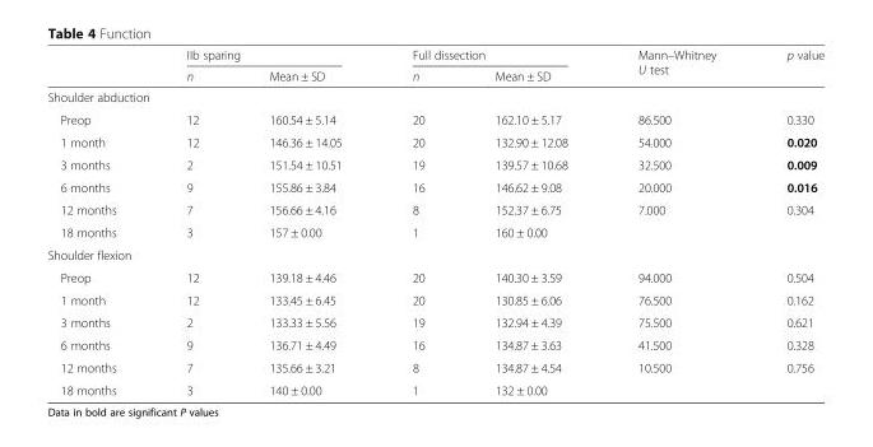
<table><thead><tr><td rowspan="2"></td><td colspan="2">IIb sparing</td><td colspan="2">Full dissection</td><td rowspan="2">Mann–Whitney U test</td><td rowspan="2">p value</td></tr><tr><td>n</td><td>Mean ± SD</td><td>n</td><td>Mean ± SD</td></tr></thead><tbody><tr><td colspan="7">Shoulder abduction</td></tr><tr><td>Preop</td><td>12</td><td>160.54 ± 5.14</td><td>20</td><td>162.10 ± 5.17</td><td>86.500</td><td>0.330</td></tr><tr><td>1 month</td><td>12</td><td>146.36 ± 14.05</td><td>20</td><td>132.90 ± 12.08</td><td>54.000</td><td>0.020</td></tr><tr><td>3 months</td><td>2</td><td>151.54 ± 10.51</td><td>19</td><td>139.57 ± 10.68</td><td>32.500</td><td>0.009</td></tr><tr><td>6 months</td><td>9</td><td>155.86 ± 3.84</td><td>16</td><td>146.62 ± 9.08</td><td>20.000</td><td>0.016</td></tr><tr><td>12 months</td><td>7</td><td>156.66 ± 4.16</td><td>8</td><td>152.37 ± 6.75</td><td>7.000</td><td>0.304</td></tr><tr><td>18 months</td><td>3</td><td>157 ± 0.00</td><td>1</td><td>160 ± 0.00</td><td></td><td></td></tr><tr><td colspan="7">Shoulder flexion</td></tr><tr><td>Preop</td><td>12</td><td>139.18 ± 4.46</td><td>20</td><td>140.30 ± 3.59</td><td>94.000</td><td>0.504</td></tr><tr><td>1 month</td><td>12</td><td>133.45 ± 6.45</td><td>20</td><td>130.85 ± 6.06</td><td>76.500</td><td>0.162</td></tr><tr><td>3 months</td><td>2</td><td>133.33 ± 5.56</td><td>19</td><td>132.94 ± 4.39</td><td>75.500</td><td>0.621</td></tr><tr><td>6 months</td><td>9</td><td>136.71 ± 4.49</td><td>16</td><td>134.87 ± 3.63</td><td>41.500</td><td>0.328</td></tr><tr><td>12 months</td><td>7</td><td>135.66 ± 3.21</td><td>8</td><td>134.87 ± 4.54</td><td>10.500</td><td>0.756</td></tr><tr><td>18 months</td><td>3</td><td>140 ± 0.00</td><td>1</td><td>132 ± 0.00</td><td></td><td></td></tr></tbody></table>